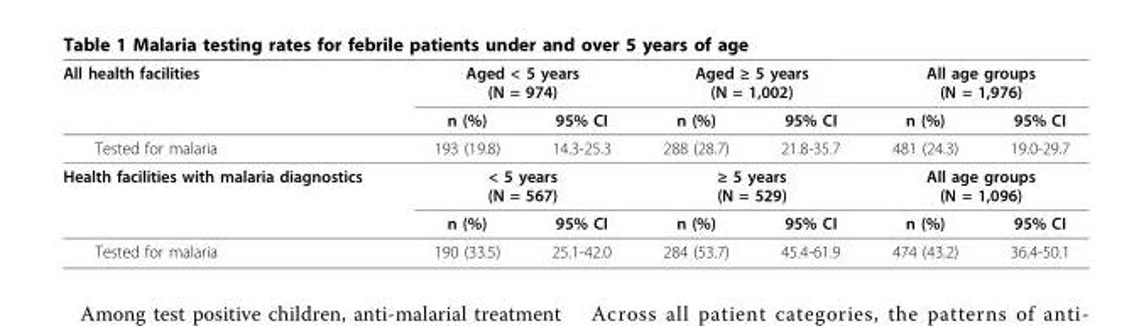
<table><thead><tr><td rowspan="2">All health facilities</td><td colspan="2">Aged &lt; 5 years (N = 974)</td><td colspan="2">Aged ≥ 5 years (N = 1,002)</td><td colspan="2">All age groups (N = 1,976)</td></tr><tr><td>n (%)</td><td>95% CI</td><td>n (%)</td><td>95% CI</td><td>n (%)</td><td>95% CI</td></tr></thead><tbody><tr><td>Tested for malaria</td><td>193 (19.8)</td><td>14.3-25.3</td><td>288 (28.7)</td><td>21.8-35.7</td><td>481 (24.3)</td><td>19.0-29.7</td></tr><tr><td rowspan="2">Health facilities with malaria diagnostics</td><td colspan="2">&lt; 5 years (N = 567)</td><td colspan="2">≥ 5 years (N = 529)</td><td colspan="2">All age groups (N = 1,096)</td></tr><tr><td>n (%)</td><td>95% CI</td><td>n (%)</td><td>95% CI</td><td>n (%)</td><td>95% CI</td></tr><tr><td>Tested for malaria</td><td>190 (33.5)</td><td>25.1-42.0</td><td>284 (53.7)</td><td>45.4-61.9</td><td>474 (43.2)</td><td>36.4-50.1</td></tr></tbody></table>